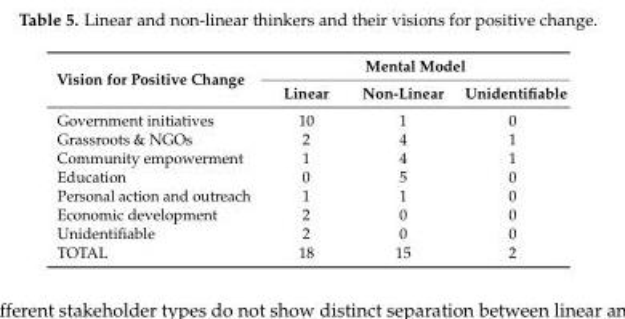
<table><thead><tr><td rowspan="2">Vision for Positive Change</td><td colspan="3">Mental Model</td></tr><tr><td>Linear</td><td>Non-Linear</td><td>Unidentifiable</td></tr></thead><tbody><tr><td>Government initiatives</td><td>10</td><td>1</td><td>0</td></tr><tr><td>Grassroots &amp; NGOs</td><td>2</td><td>4</td><td>1</td></tr><tr><td>Community empowerment</td><td>1</td><td>4</td><td>1</td></tr><tr><td>Education</td><td>0</td><td>5</td><td>0</td></tr><tr><td>Personal action and outreach</td><td>1</td><td>1</td><td>0</td></tr><tr><td>Economic development</td><td>2</td><td>0</td><td>0</td></tr><tr><td>Unidentifiable</td><td>2</td><td>0</td><td>0</td></tr><tr><td>TOTAL</td><td>18</td><td>15</td><td>2</td></tr></tbody></table>